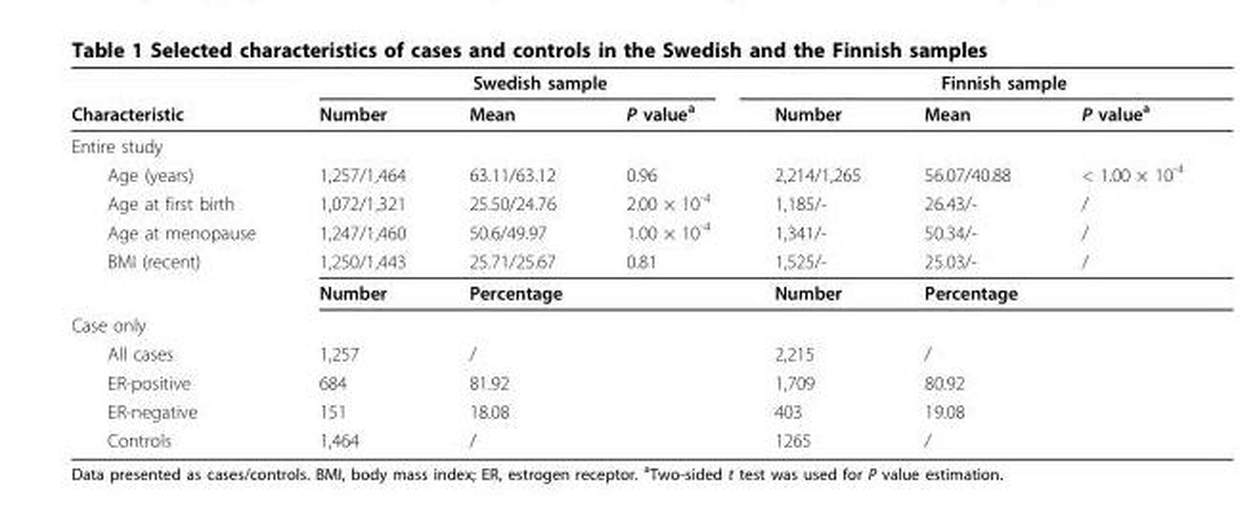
<table><thead><tr><td rowspan="2">Characteristic</td><td colspan="3">Swedish sample</td><td colspan="3">Finnish sample</td></tr><tr><td>Number</td><td>Mean</td><td>P value<sup>a</sup></td><td>Number</td><td>Mean</td><td>P value<sup>a</sup></td></tr></thead><tbody><tr><td colspan="7">Entire study</td></tr><tr><td>Age (years)</td><td>1,257/1,464</td><td>63.11/63.12</td><td>0.96</td><td>2,214/1,265</td><td>56.07/40.88</td><td>&lt; 1.00 × 10<sup>-4</sup></td></tr><tr><td>Age at first birth</td><td>1,072/1,321</td><td>25.50/24.76</td><td>2.00 × 10<sup>-4</sup></td><td>1,185/-</td><td>26.43/-</td><td>/</td></tr><tr><td>Age at menopause</td><td>1,247/1,460</td><td>50.6/49.97</td><td>1.00 × 10<sup>-4</sup></td><td>1,341/-</td><td>50.34/-</td><td>/</td></tr><tr><td rowspan="2">BMI (recent)</td><td>1,250/1,443</td><td>25.71/25.67</td><td>0.81</td><td>1,525/-</td><td>25.03/-</td><td>/</td></tr><tr><td>Number</td><td>Percentage</td><td></td><td>Number</td><td>Percentage</td><td></td></tr><tr><td colspan="7">Case only</td></tr><tr><td>All cases</td><td>1,257</td><td>/</td><td></td><td>2,215</td><td>/</td><td></td></tr><tr><td>ER-positive</td><td>684</td><td>81.92</td><td></td><td>1,709</td><td>80.92</td><td></td></tr><tr><td>ER-negative</td><td>151</td><td>18.08</td><td></td><td>403</td><td>19.08</td><td></td></tr><tr><td>Controls</td><td>1,464</td><td>/</td><td></td><td>1265</td><td>/</td><td></td></tr></tbody></table>